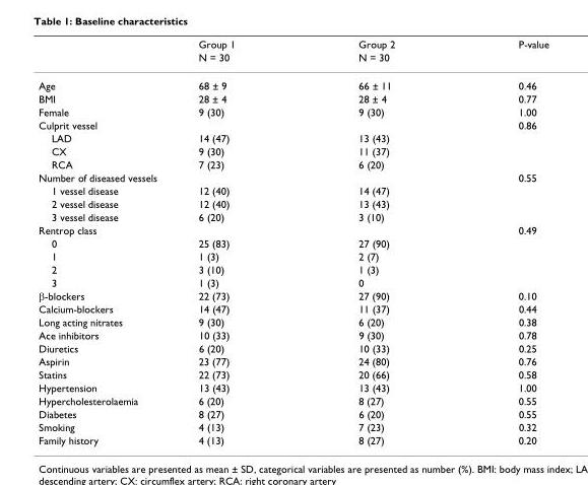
<table><thead><tr><td rowspan="2"></td><td rowspan="2">Group 1 N = 30</td><td rowspan="2">Group 2 N = 30</td><td rowspan="2">P-value</td></tr><tr></tr></thead><tbody><tr><td>Age</td><td>68 ± 9</td><td>66 ± 11</td><td>0.46</td></tr><tr><td>BMI</td><td>28 ± 4</td><td>28 ± 4</td><td>0.77</td></tr><tr><td>Female</td><td>9 (30)</td><td>9 (30)</td><td>1.00</td></tr><tr><td>Culprit vessel</td><td></td><td></td><td>0.86</td></tr><tr><td>LAD</td><td>14 (47)</td><td>13 (43)</td><td></td></tr><tr><td>CX</td><td>9 (30)</td><td>11 (37)</td><td></td></tr><tr><td>RCA</td><td>7 (23)</td><td>6 (20)</td><td></td></tr><tr><td>Number of diseased vessels</td><td></td><td></td><td>0.55</td></tr><tr><td>1 vessel disease</td><td>12 (40)</td><td>14 (47)</td><td></td></tr><tr><td>2 vessel disease</td><td>12 (40)</td><td>13 (43)</td><td></td></tr><tr><td>3 vessel disease</td><td>6 (20)</td><td>3 (10)</td><td></td></tr><tr><td>Rentrop class</td><td></td><td></td><td>0.49</td></tr><tr><td>0</td><td>25 (83)</td><td>27 (90)</td><td></td></tr><tr><td>1</td><td>1 (3)</td><td>2 (7)</td><td></td></tr><tr><td>2</td><td>3 (10)</td><td>1 (3)</td><td></td></tr><tr><td>3</td><td>1 (3)</td><td>0</td><td></td></tr><tr><td>β-blockers</td><td>22 (73)</td><td>27 (90)</td><td>0.10</td></tr><tr><td>Calcium-blockers</td><td>14 (47)</td><td>11 (37)</td><td>0.44</td></tr><tr><td>Long acting nitrates</td><td>9 (30)</td><td>6 (20)</td><td>0.38</td></tr><tr><td>Ace inhibitors</td><td>10 (33)</td><td>9 (30)</td><td>0.78</td></tr><tr><td>Diuretics</td><td>6 (20)</td><td>10 (33)</td><td>0.25</td></tr><tr><td>Aspirin</td><td>23 (77)</td><td>24 (80)</td><td>0.76</td></tr><tr><td>Statins</td><td>22 (73)</td><td>20 (66)</td><td>0.58</td></tr><tr><td>Hypertension</td><td>13 (43)</td><td>13 (43)</td><td>1.00</td></tr><tr><td>Hypercholesterolaemia</td><td>6 (20)</td><td>8 (27)</td><td>0.55</td></tr><tr><td>Diabetes</td><td>8 (27)</td><td>6 (20)</td><td>0.55</td></tr><tr><td>Smoking</td><td>4 (13)</td><td>7 (23)</td><td>0.32</td></tr><tr><td>Family history</td><td>4 (13)</td><td>8 (27)</td><td>0.20</td></tr></tbody></table>